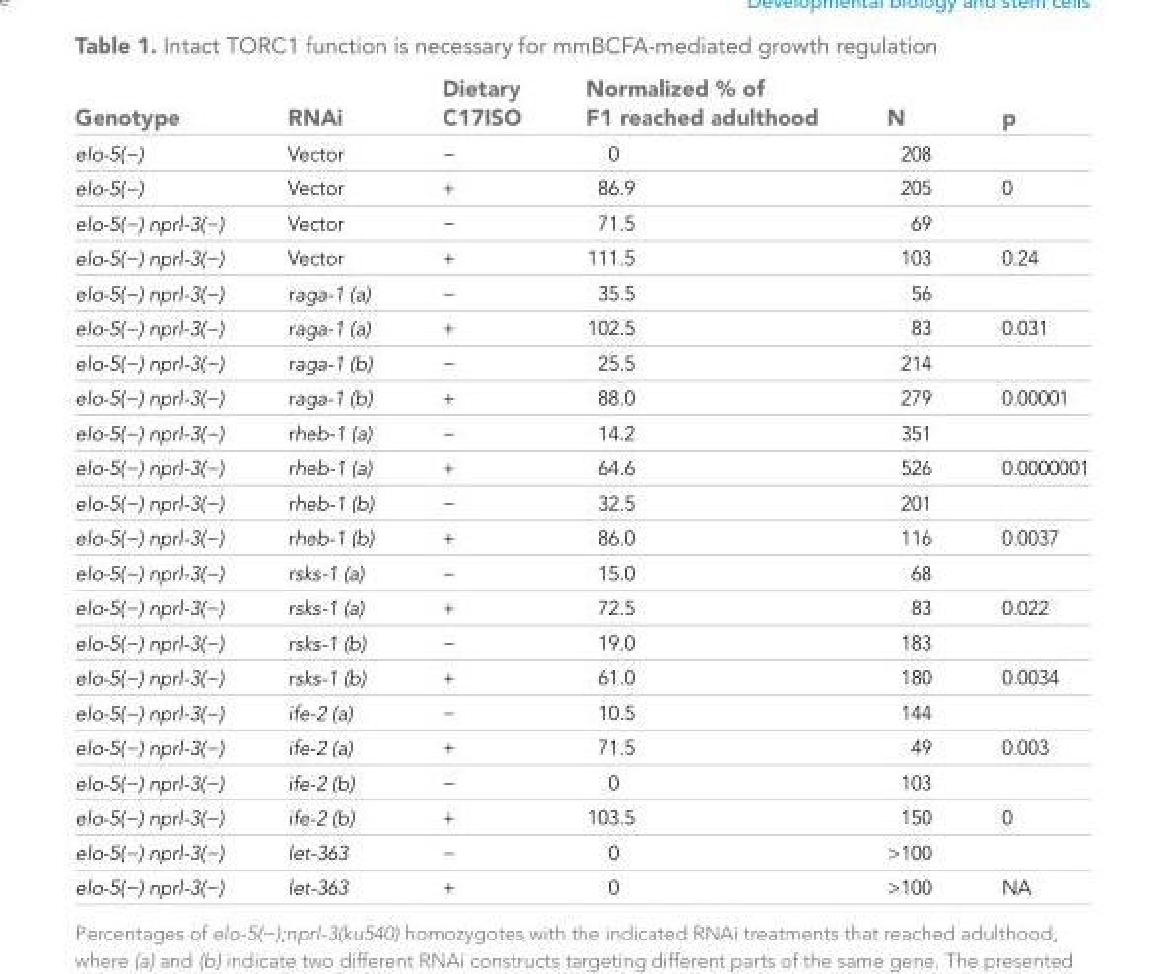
<table><thead><tr><td>Genotype</td><td>RNAi</td><td>Dietary C17ISO</td><td>Normalized % of F1 reached adulthood</td><td>N</td><td>p</td></tr></thead><tbody><tr><td>elo-5(−)</td><td>Vector</td><td>−</td><td>0</td><td>208</td><td></td></tr><tr><td>elo-5(−)</td><td>Vector</td><td>+</td><td>86.9</td><td>205</td><td>0</td></tr><tr><td>elo-5(−) nprl-3(−)</td><td>Vector</td><td>−</td><td>71.5</td><td>69</td><td></td></tr><tr><td>elo-5(−) nprl-3(−)</td><td>Vector</td><td>+</td><td>111.5</td><td>103</td><td>0.24</td></tr><tr><td>elo-5(−) nprl-3(−)</td><td>raga-1 (a)</td><td>−</td><td>35.5</td><td>56</td><td></td></tr><tr><td>elo-5(−) nprl-3(−)</td><td>raga-1 (a)</td><td>+</td><td>102.5</td><td>83</td><td>0.031</td></tr><tr><td>elo-5(−) nprl-3(−)</td><td>raga-1 (b)</td><td>−</td><td>25.5</td><td>214</td><td></td></tr><tr><td>elo-5(−) nprl-3(−)</td><td>raga-1 (b)</td><td>+</td><td>88.0</td><td>279</td><td>0.00001</td></tr><tr><td>elo-5(−) nprl-3(−)</td><td>rheb-1 (a)</td><td>−</td><td>14.2</td><td>351</td><td></td></tr><tr><td>elo-5(−) nprl-3(−)</td><td>rheb-1 (a)</td><td>+</td><td>64.6</td><td>526</td><td>0.0000001</td></tr><tr><td>elo-5(−) nprl-3(−)</td><td>rheb-1 (b)</td><td>−</td><td>32.5</td><td>201</td><td></td></tr><tr><td>elo-5(−) nprl-3(−)</td><td>rheb-1 (b)</td><td>+</td><td>86.0</td><td>116</td><td>0.0037</td></tr><tr><td>elo-5(−) nprl-3(−)</td><td>rsks-1 (a)</td><td>−</td><td>15.0</td><td>68</td><td></td></tr><tr><td>elo-5(−) nprl-3(−)</td><td>rsks-1 (a)</td><td>+</td><td>72.5</td><td>83</td><td>0.022</td></tr><tr><td>elo-5(−) nprl-3(−)</td><td>rsks-1 (b)</td><td>−</td><td>19.0</td><td>183</td><td></td></tr><tr><td>elo-5(−) nprl-3(−)</td><td>rsks-1 (b)</td><td>+</td><td>61.0</td><td>180</td><td>0.0034</td></tr><tr><td>elo-5(−) nprl-3(−)</td><td>ife-2 (a)</td><td>−</td><td>10.5</td><td>144</td><td></td></tr><tr><td>elo-5(−) nprl-3(−)</td><td>ife-2 (a)</td><td>+</td><td>71.5</td><td>49</td><td>0.003</td></tr><tr><td>elo-5(−) nprl-3(−)</td><td>ife-2 (b)</td><td>−</td><td>0</td><td>103</td><td></td></tr><tr><td>elo-5(−) nprl-3(−)</td><td>ife-2 (b)</td><td>+</td><td>103.5</td><td>150</td><td>0</td></tr><tr><td>elo-5(−) nprl-3(−)</td><td>let-363</td><td>−</td><td>0</td><td>&gt;100</td><td></td></tr><tr><td>elo-5(−) nprl-3(−)</td><td>let-363</td><td>+</td><td>0</td><td>&gt;100</td><td>NA</td></tr></tbody></table>